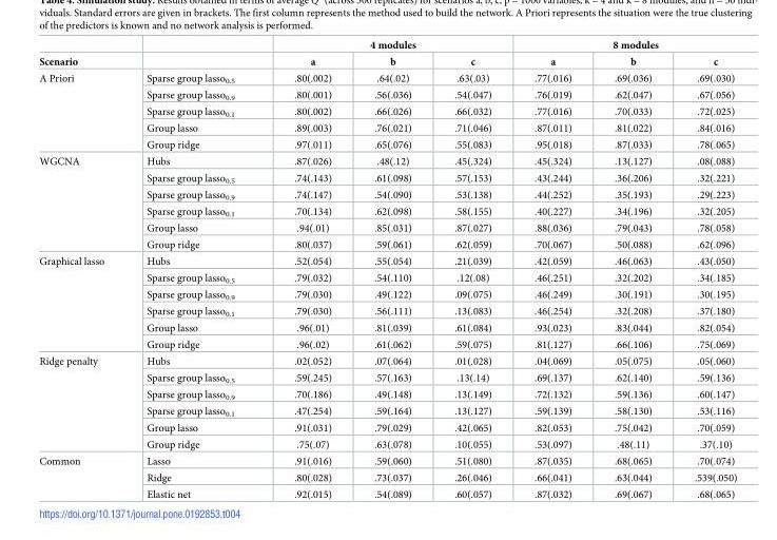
<table><thead><tr><td rowspan="2">Scenario</td><td rowspan="2"></td><td colspan="3">4 modules</td><td colspan="3">8 modules</td></tr><tr><td>a</td><td>b</td><td>c</td><td>a</td><td>b</td><td>c</td></tr></thead><tbody><tr><td rowspan="5">A Priori</td><td>Sparse group lasso<sub>0.5</sub></td><td>.80(.002)</td><td>.64(.02)</td><td>.63(.03)</td><td>.77(.016)</td><td>.69(.036)</td><td>.69(.030)</td></tr><tr><td>Sparse group lasso<sub>0.9</sub></td><td>.80(.001)</td><td>.56(.036)</td><td>.54(.047)</td><td>.76(.019)</td><td>.62(.047)</td><td>.67(.056)</td></tr><tr><td>Sparse group lasso<sub>0.1</sub></td><td>.80(.002)</td><td>.66(.026)</td><td>.66(.032)</td><td>.77(.016)</td><td>.70(.033)</td><td>.72(.025)</td></tr><tr><td>Group lasso</td><td>.89(.003)</td><td>.76(.021)</td><td>.71(.046)</td><td>.87(.011)</td><td>.81(.022)</td><td>.84(.016)</td></tr><tr><td>Group ridge</td><td>.97(.011)</td><td>.65(.076)</td><td>.55(.083)</td><td>.95(.018)</td><td>.87(.033)</td><td>.78(.065)</td></tr><tr><td rowspan="6">WGCNA</td><td>Hubs</td><td>.87(.026)</td><td>.48(.12)</td><td>.45(.324)</td><td>.45(.324)</td><td>.13(.127)</td><td>.08(.088)</td></tr><tr><td>Sparse group lasso<sub>0.5</sub></td><td>.74(.143)</td><td>.61(.098)</td><td>.57(.153)</td><td>.43(.244)</td><td>.36(.206)</td><td>.32(.221)</td></tr><tr><td>Sparse group lasso<sub>0.9</sub></td><td>.74(.147)</td><td>.54(.090)</td><td>.53(.138)</td><td>.44(.252)</td><td>.35(.193)</td><td>.29(.223)</td></tr><tr><td>Sparse group lasso<sub>0.1</sub></td><td>.70(.134)</td><td>.62(.098)</td><td>.58(.155)</td><td>.40(.227)</td><td>.34(.196)</td><td>.32(.205)</td></tr><tr><td>Group lasso</td><td>.94(.01)</td><td>.85(.031)</td><td>.87(.027)</td><td>.88(.036)</td><td>.79(.043)</td><td>.78(.058)</td></tr><tr><td>Group ridge</td><td>.80(.037)</td><td>.59(.061)</td><td>.62(.059)</td><td>.70(.067)</td><td>.50(.088)</td><td>.62(.096)</td></tr><tr><td rowspan="6">Graphical lasso</td><td>Hubs</td><td>.52(.054)</td><td>.55(.054)</td><td>.21(.039)</td><td>.42(.059)</td><td>.46(.063)</td><td>.43(.050)</td></tr><tr><td>Sparse group lasso<sub>0.5</sub></td><td>.79(.032)</td><td>.54(.110)</td><td>.12(.08)</td><td>.46(.251)</td><td>.32(.202)</td><td>.34(.185)</td></tr><tr><td>Sparse group lasso<sub>0.9</sub></td><td>.79(.030)</td><td>.49(.122)</td><td>.09(.075)</td><td>.46(.249)</td><td>.30(.191)</td><td>.30(.195)</td></tr><tr><td>Sparse group lasso<sub>0.1</sub></td><td>.79(.030)</td><td>.56(.111)</td><td>.13(.083)</td><td>.46(.254)</td><td>.32(.208)</td><td>.37(.180)</td></tr><tr><td>Group lasso</td><td>.96(.01)</td><td>.81(.039)</td><td>.61(.084)</td><td>.93(.023)</td><td>.83(.044)</td><td>.82(.054)</td></tr><tr><td>Group ridge</td><td>.96(.02)</td><td>.61(.062)</td><td>.59(.075)</td><td>.81(.127)</td><td>.66(.106)</td><td>.75(.069)</td></tr><tr><td rowspan="6">Ridge penalty</td><td>Hubs</td><td>.02(.052)</td><td>.07(.064)</td><td>.01(.028)</td><td>.04(.069)</td><td>.05(.075)</td><td>.05(.060)</td></tr><tr><td>Sparse group lasso<sub>0.5</sub></td><td>.59(.245)</td><td>.57(.163)</td><td>.13(.14)</td><td>.69(.137)</td><td>.62(.140)</td><td>.59(.136)</td></tr><tr><td>Sparse group lasso<sub>0.9</sub></td><td>.70(.186)</td><td>.49(.148)</td><td>.13(.149)</td><td>.72(.132)</td><td>.59(.136)</td><td>.60(.147)</td></tr><tr><td>Sparse group lasso<sub>0.1</sub></td><td>.47(.254)</td><td>.59(.164)</td><td>.13(.127)</td><td>.59(.139)</td><td>.58(.130)</td><td>.53(.116)</td></tr><tr><td>Group lasso</td><td>.91(.031)</td><td>.79(.029)</td><td>.42(.065)</td><td>.82(.053)</td><td>.75(.042)</td><td>.70(.059)</td></tr><tr><td>Group ridge</td><td>.75(.07)</td><td>.63(.078)</td><td>.10(.055)</td><td>.53(.097)</td><td>.48(.11)</td><td>.37(.10)</td></tr><tr><td rowspan="3">Common</td><td>Lasso</td><td>.91(.016)</td><td>.59(.060)</td><td>.51(.080)</td><td>.87(.035)</td><td>.68(.065)</td><td>.70(.074)</td></tr><tr><td>Ridge</td><td>.80(.028)</td><td>.73(.037)</td><td>.26(.046)</td><td>.66(.041)</td><td>.63(.044)</td><td>.539(.050)</td></tr><tr><td>Elastic net</td><td>.92(.015)</td><td>.54(.089)</td><td>.60(.057)</td><td>.87(.032)</td><td>.69(.067)</td><td>.68(.065)</td></tr></tbody></table>